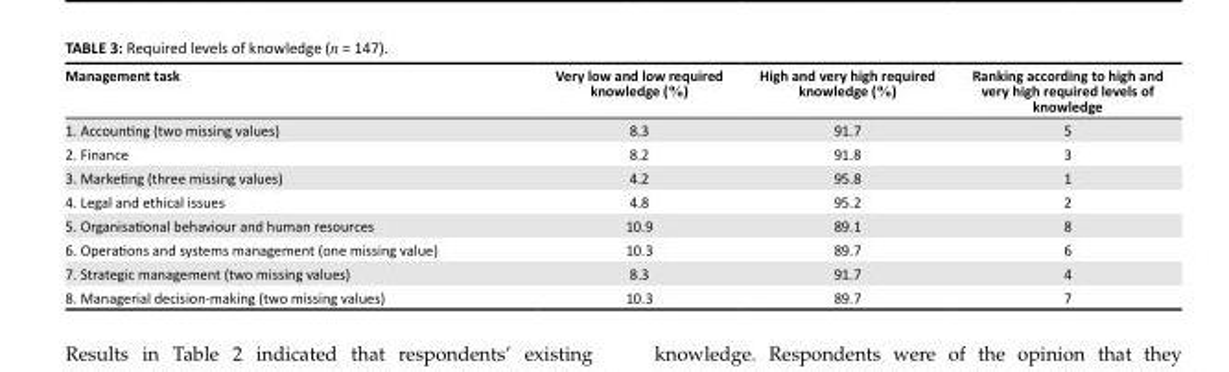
<table><thead><tr><td>Management task</td><td>Very low and low required knowledge (%)</td><td>High and very high required knowledge (%)</td><td>Ranking according to high and very high required levels of knowledge</td></tr></thead><tbody><tr><td>1. Accounting (two missing values)</td><td>8.3</td><td>91.7</td><td>5</td></tr><tr><td>2. Finance</td><td>8.2</td><td>91.8</td><td>3</td></tr><tr><td>3. Marketing (three missing values)</td><td>4.2</td><td>95.8</td><td>1</td></tr><tr><td>4. Legal and ethical issues</td><td>4.8</td><td>95.2</td><td>2</td></tr><tr><td>5. Organisational behaviour and human resources</td><td>10.9</td><td>89.1</td><td>8</td></tr><tr><td>6. Operations and systems management (one missing value)</td><td>10.3</td><td>89.7</td><td>6</td></tr><tr><td>7. Strategic management (two missing values)</td><td>8.3</td><td>91.7</td><td>4</td></tr><tr><td>8. Managerial decision-making (two missing values)</td><td>10.3</td><td>89.7</td><td>7</td></tr></tbody></table>